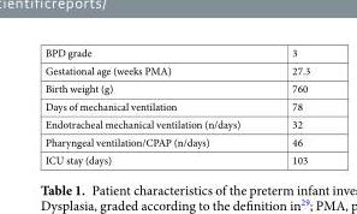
<table><tbody><tr><td>BPD grade</td><td>3</td></tr><tr><td>Gestational age (weeks PMA)</td><td>27.3</td></tr><tr><td>Birth weight (g)</td><td>760</td></tr><tr><td>Days of mechanical ventilation</td><td>78</td></tr><tr><td>Endotracheal mechanical ventilation (n/days)</td><td>32</td></tr><tr><td>Pharyngeal ventilation/CPAP (n/days)</td><td>46</td></tr><tr><td>ICU stay (days)</td><td>103</td></tr></tbody></table>